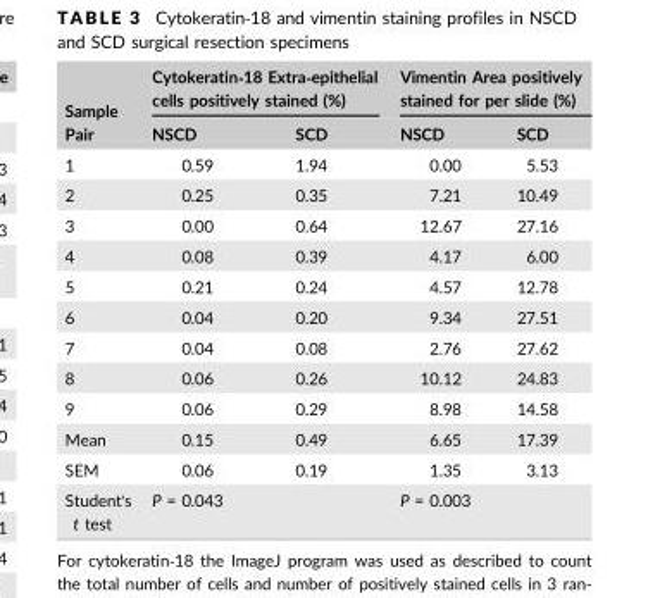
<table><thead><tr><td rowspan="2">Sample Pair</td><td colspan="2">Cytokeratin‐18 Extra‐epithelial cells positively stained (%)</td><td colspan="2">Vimentin Area positively stained for per slide (%)</td></tr><tr><td>NSCD</td><td>SCD</td><td>NSCD</td><td>SCD</td></tr></thead><tbody><tr><td>1</td><td>0.59</td><td>1.94</td><td>0.00</td><td>5.53</td></tr><tr><td>2</td><td>0.25</td><td>0.35</td><td>7.21</td><td>10.49</td></tr><tr><td>3</td><td>0.00</td><td>0.64</td><td>12.67</td><td>27.16</td></tr><tr><td>4</td><td>0.08</td><td>0.39</td><td>4.17</td><td>6.00</td></tr><tr><td>5</td><td>0.21</td><td>0.24</td><td>4.57</td><td>12.78</td></tr><tr><td>6</td><td>0.04</td><td>0.20</td><td>9.34</td><td>27.51</td></tr><tr><td>7</td><td>0.04</td><td>0.08</td><td>2.76</td><td>27.62</td></tr><tr><td>8</td><td>0.06</td><td>0.26</td><td>10.12</td><td>24.83</td></tr><tr><td>9</td><td>0.06</td><td>0.29</td><td>8.98</td><td>14.58</td></tr><tr><td>Mean</td><td>0.15</td><td>0.49</td><td>6.65</td><td>17.39</td></tr><tr><td>SEM</td><td>0.06</td><td>0.19</td><td>1.35</td><td>3.13</td></tr><tr><td>Student&#x27;s t test</td><td>P = 0.043</td><td></td><td>P = 0.003</td><td></td></tr></tbody></table>